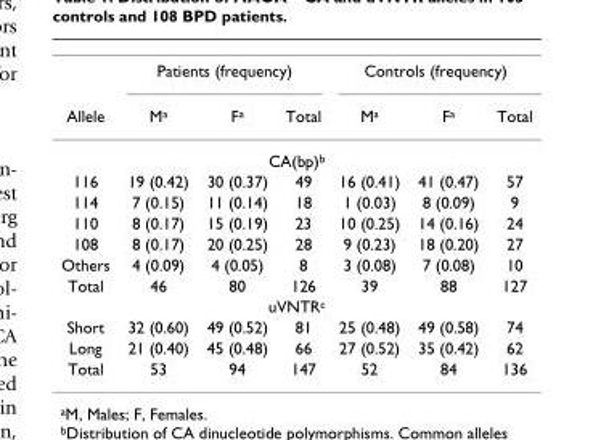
<table><thead><tr><td rowspan="2">Allele</td><td colspan="3">Patients (frequency)</td><td colspan="3">Controls (frequency)</td></tr><tr><td>M<sup>a</sup></td><td>F<sup>a</sup></td><td>Total</td><td>M<sup>a</sup></td><td>F<sup>a</sup></td><td>Total</td></tr></thead><tbody><tr><td colspan="7">CA(bp)<sup>b</sup></td></tr><tr><td>116</td><td>19 (0.42)</td><td>30 (0.37)</td><td>49</td><td>16 (0.41)</td><td>41 (0.47)</td><td>57</td></tr><tr><td>114</td><td>7 (0.15)</td><td>11 (0.14)</td><td>18</td><td>1 (0.03)</td><td>8 (0.09)</td><td>9</td></tr><tr><td>110</td><td>8 (0.17)</td><td>15 (0.19)</td><td>23</td><td>10 (0.25)</td><td>14 (0.16)</td><td>24</td></tr><tr><td>108</td><td>8 (0.17)</td><td>20 (0.25)</td><td>28</td><td>9 (0.23)</td><td>18 (0.20)</td><td>27</td></tr><tr><td>Others</td><td>4 (0.09)</td><td>4 (0.05)</td><td>8</td><td>3 (0.08)</td><td>7 (0.08)</td><td>10</td></tr><tr><td>Total</td><td>46</td><td>80</td><td>126</td><td>39</td><td>88</td><td>127</td></tr><tr><td colspan="7">uVNTR<sup>c</sup></td></tr><tr><td>Short</td><td>32 (0.60)</td><td>49 (0.52)</td><td>81</td><td>25 (0.48)</td><td>49 (0.58)</td><td>74</td></tr><tr><td>Long</td><td>21 (0.40)</td><td>45 (0.48)</td><td>66</td><td>27 (0.52)</td><td>35 (0.42)</td><td>62</td></tr><tr><td>Total</td><td>53</td><td>94</td><td>147</td><td>52</td><td>84</td><td>136</td></tr></tbody></table>